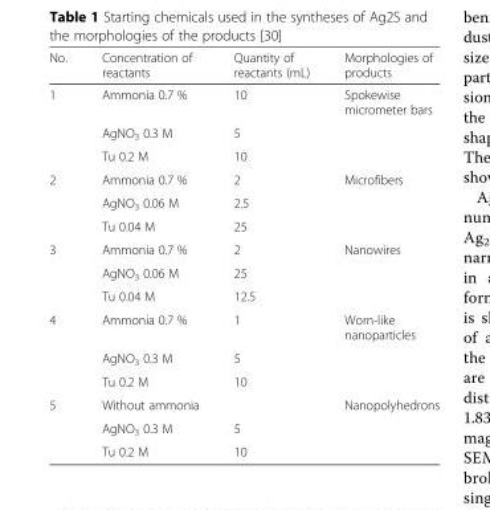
<table><thead><tr><td>No.</td><td>Concentration of reactants</td><td>Quantity of reactants (mL)</td><td>Morphologies of products</td></tr></thead><tbody><tr><td rowspan="3">1</td><td>Ammonia 0.7 %</td><td>10</td><td>Spokewise micrometer bars</td></tr><tr><td>AgNO<sub>3</sub> 0.3 M</td><td>5</td><td></td></tr><tr><td>Tu 0.2 M</td><td>10</td><td></td></tr><tr><td rowspan="3">2</td><td>Ammonia 0.7 %</td><td>2</td><td>Microfibers</td></tr><tr><td>AgNO<sub>3</sub> 0.06 M</td><td>2.5</td><td></td></tr><tr><td>Tu 0.04 M</td><td>25</td><td></td></tr><tr><td rowspan="3">3</td><td>Ammonia 0.7 %</td><td>2</td><td>Nanowires</td></tr><tr><td>AgNO<sub>3</sub> 0.06 M</td><td>25</td><td></td></tr><tr><td>Tu 0.04 M</td><td>12.5</td><td></td></tr><tr><td rowspan="3">4</td><td>Ammonia 0.7 %</td><td>1</td><td>Worn-like nanoparticles</td></tr><tr><td>AgNO<sub>3</sub> 0.3 M</td><td>5</td><td></td></tr><tr><td>Tu 0.2 M</td><td>10</td><td></td></tr><tr><td rowspan="3">5</td><td>Without ammonia</td><td></td><td>Nanopolyhedrons</td></tr><tr><td>AgNO<sub>3</sub> 0.3 M</td><td>5</td><td></td></tr><tr><td>Tu 0.2 M</td><td>10</td><td></td></tr></tbody></table>